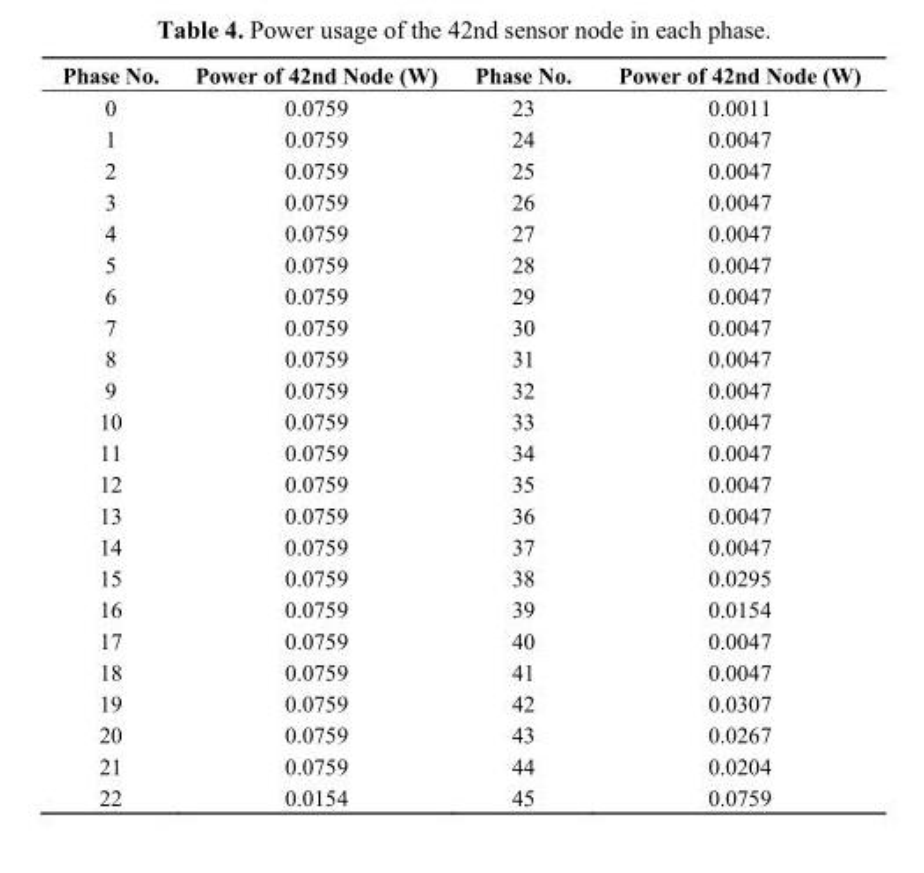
<table><thead><tr><td>Phase No.</td><td>Power of 42nd Node (W)</td><td>Phase No.</td><td>Power of 42nd Node (W)</td></tr></thead><tbody><tr><td>0</td><td>0.0759</td><td>23</td><td>0.0011</td></tr><tr><td>1</td><td>0.0759</td><td>24</td><td>0.0047</td></tr><tr><td>2</td><td>0.0759</td><td>25</td><td>0.0047</td></tr><tr><td>3</td><td>0.0759</td><td>26</td><td>0.0047</td></tr><tr><td>4</td><td>0.0759</td><td>27</td><td>0.0047</td></tr><tr><td>5</td><td>0.0759</td><td>28</td><td>0.0047</td></tr><tr><td>6</td><td>0.0759</td><td>29</td><td>0.0047</td></tr><tr><td>7</td><td>0.0759</td><td>30</td><td>0.0047</td></tr><tr><td>8</td><td>0.0759</td><td>31</td><td>0.0047</td></tr><tr><td>9</td><td>0.0759</td><td>32</td><td>0.0047</td></tr><tr><td>10</td><td>0.0759</td><td>33</td><td>0.0047</td></tr><tr><td>11</td><td>0.0759</td><td>34</td><td>0.0047</td></tr><tr><td>12</td><td>0.0759</td><td>35</td><td>0.0047</td></tr><tr><td>13</td><td>0.0759</td><td>36</td><td>0.0047</td></tr><tr><td>14</td><td>0.0759</td><td>37</td><td>0.0047</td></tr><tr><td>15</td><td>0.0759</td><td>38</td><td>0.0295</td></tr><tr><td>16</td><td>0.0759</td><td>39</td><td>0.0154</td></tr><tr><td>17</td><td>0.0759</td><td>40</td><td>0.0047</td></tr><tr><td>18</td><td>0.0759</td><td>41</td><td>0.0047</td></tr><tr><td>19</td><td>0.0759</td><td>42</td><td>0.0307</td></tr><tr><td>20</td><td>0.0759</td><td>43</td><td>0.0267</td></tr><tr><td>21</td><td>0.0759</td><td>44</td><td>0.0204</td></tr><tr><td>22</td><td>0.0154</td><td>45</td><td>0.0759</td></tr></tbody></table>